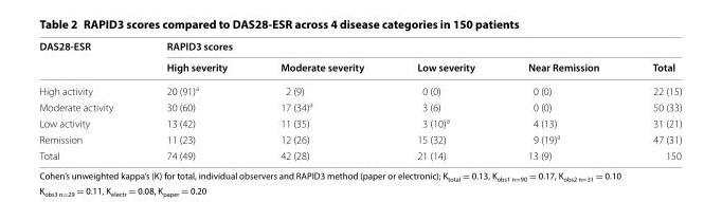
<table><thead><tr><td rowspan="2">DAS28‑ESR</td><td colspan="5">RAPID3 scores</td></tr><tr><td>High severity</td><td>Moderate severity</td><td>Low severity</td><td>Near Remission</td><td>Total</td></tr></thead><tbody><tr><td>High activity</td><td>20 (91)<sup>a</sup></td><td>2 (9)</td><td>0 (0)</td><td>0 (0)</td><td>22 (15)</td></tr><tr><td>Moderate activity</td><td>30 (60)</td><td>17 (34)<sup>a</sup></td><td>3 (6)</td><td>0 (0)</td><td>50 (33)</td></tr><tr><td>Low activity</td><td>13 (42)</td><td>11 (35)</td><td>3 (10)<sup>a</sup></td><td>4 (13)</td><td>31 (21)</td></tr><tr><td>Remission</td><td>11 (23)</td><td>12 (26)</td><td>15 (32)</td><td>9 (19)<sup>a</sup></td><td>47 (31)</td></tr><tr><td>Total</td><td>74 (49)</td><td>42 (28)</td><td>21 (14)</td><td>13 (9)</td><td>150</td></tr></tbody></table>